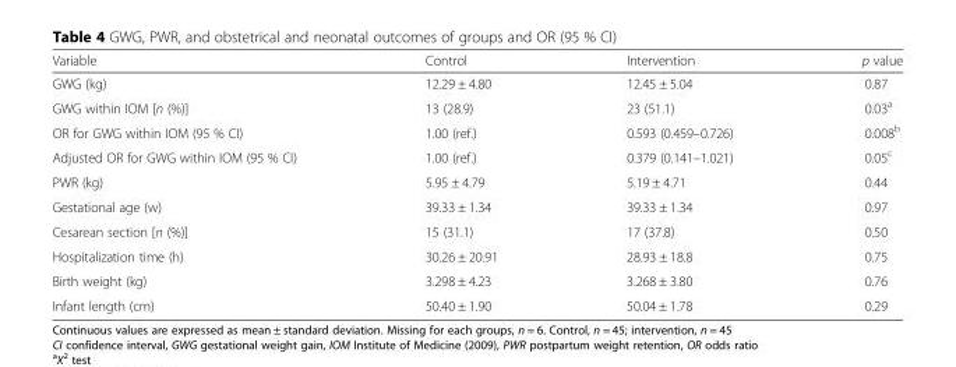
<table><thead><tr><td>Variable</td><td>Control</td><td>Intervention</td><td>p value</td></tr></thead><tbody><tr><td>GWG (kg)</td><td>12.29 ± 4.80</td><td>12.45 ± 5.04</td><td>0.87</td></tr><tr><td>GWG within IOM [n (%)]</td><td>13 (28.9)</td><td>23 (51.1)</td><td>0.03<sup>a</sup></td></tr><tr><td>OR for GWG within IOM (95 % CI)</td><td>1.00 (ref.)</td><td>0.593 (0.459–0.726)</td><td>0.008<sup>b</sup></td></tr><tr><td>Adjusted OR for GWG within IOM (95 % CI)</td><td>1.00 (ref.)</td><td>0.379 (0.141–1.021)</td><td>0.05<sup>c</sup></td></tr><tr><td>PWR (kg)</td><td>5.95 ± 4.79</td><td>5.19 ± 4.71</td><td>0.44</td></tr><tr><td>Gestational age (w)</td><td>39.33 ± 1.34</td><td>39.33 ± 1.34</td><td>0.97</td></tr><tr><td>Cesarean section [n (%)]</td><td>15 (31.1)</td><td>17 (37.8)</td><td>0.50</td></tr><tr><td>Hospitalization time (h)</td><td>30.26 ± 20.91</td><td>28.93 ± 18.8</td><td>0.75</td></tr><tr><td>Birth weight (kg)</td><td>3.298 ± 4.23</td><td>3.268 ± 3.80</td><td>0.76</td></tr><tr><td>Infant length (cm)</td><td>50.40 ± 1.90</td><td>50.04 ± 1.78</td><td>0.29</td></tr></tbody></table>